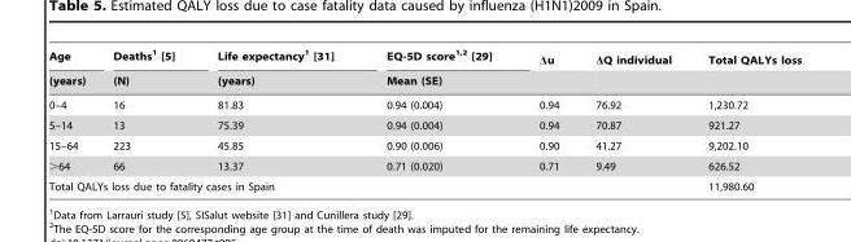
<table><thead><tr><td rowspan="2">Age (years)</td><td rowspan="2">Deaths<sup>1</sup> [5] (N)</td><td rowspan="2">Life expectancy<sup>1</sup> [31] (years)</td><td rowspan="2">EQ-5D score<sup>1,2</sup> [29] Mean (SE)</td><td rowspan="2">Δu</td><td rowspan="2">ΔQ individual</td><td rowspan="2">Total QALYs loss</td></tr><tr></tr></thead><tbody><tr><td>0–4</td><td>16</td><td>81.83</td><td>0.94 (0.004)</td><td>0.94</td><td>76.92</td><td>1,230.72</td></tr><tr><td>5–14</td><td>13</td><td>75.39</td><td>0.94 (0.004)</td><td>0.94</td><td>70.87</td><td>921.27</td></tr><tr><td>15–64</td><td>223</td><td>45.85</td><td>0.90 (0.006)</td><td>0.90</td><td>41.27</td><td>9,202.10</td></tr><tr><td>&gt;64</td><td>66</td><td>13.37</td><td>0.71 (0.020)</td><td>0.71</td><td>9.49</td><td>626.52</td></tr><tr><td colspan="6">Total QALYs loss due to fatality cases in Spain</td><td>11,980.60</td></tr></tbody></table>